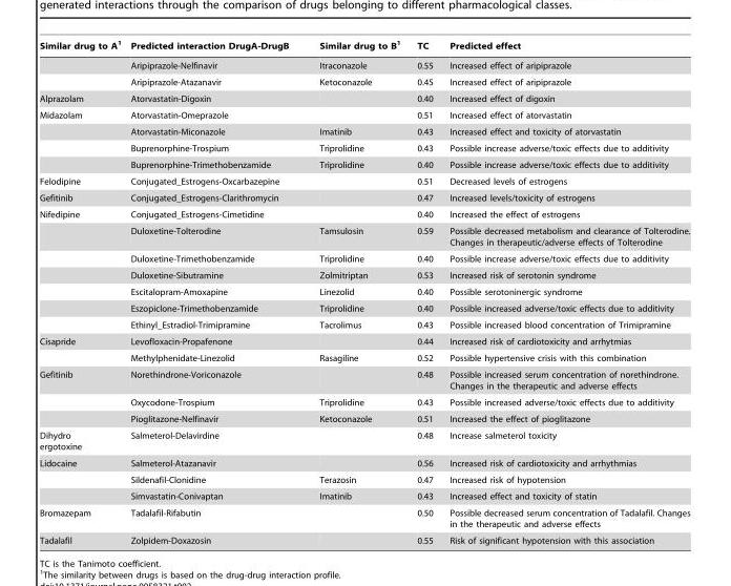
<table><thead><tr><td>Similar drug to A<sup>1</sup></td><td>Predicted interaction DrugA-DrugB</td><td>Similar drug to B<sup>1</sup></td><td>TC</td><td>Predicted effect</td></tr></thead><tbody><tr><td></td><td>Aripiprazole-Nelfinavir</td><td>Itraconazole</td><td>0.55</td><td>Increased effect of aripiprazole</td></tr><tr><td></td><td>Aripiprazole-Atazanavir</td><td>Ketoconazole</td><td>0.45</td><td>Increased effect of aripiprazole</td></tr><tr><td>Alprazolam</td><td>Atorvastatin-Digoxin</td><td></td><td>0.40</td><td>Increased effect of digoxin</td></tr><tr><td rowspan="4">Midazolam</td><td>Atorvastatin-Omeprazole</td><td></td><td>0.51</td><td>Increased effect of atorvastatin</td></tr><tr><td>Atorvastatin-Miconazole</td><td>Imatinib</td><td>0.43</td><td>Increased effect and toxicity of atorvastatin</td></tr><tr><td>Buprenorphine-Trospium</td><td>Triprolidine</td><td>0.43</td><td>Possible increase adverse/toxic effects due to additivity</td></tr><tr><td>Buprenorphine-Trimethobenzamide</td><td>Triprolidine</td><td>0.40</td><td>Possible increase adverse/toxic effects due to additivity</td></tr><tr><td>Felodipine</td><td>Conjugated_Estrogens-Oxcarbazepine</td><td></td><td>0.51</td><td>Decreased levels of estrogens</td></tr><tr><td>Gefitinib</td><td>Conjugated_Estrogens-Clarithromycin</td><td></td><td>0.47</td><td>Increased levels/toxicity of estrogens</td></tr><tr><td rowspan="7">Nifedipine</td><td>Conjugated_Estrogens-Cimetidine</td><td></td><td>0.40</td><td>Increased the effect of estrogens</td></tr><tr><td>Duloxetine-Tolterodine</td><td>Tamsulosin</td><td>0.59</td><td>Possible decreased metabolism and clearance of Tolterodine. Changes in therapeutic/adverse effects of Tolterodine</td></tr><tr><td>Duloxetine-Trimethobenzamide</td><td>Triprolidine</td><td>0.40</td><td>Possible increase adverse/toxic effects due to additivity</td></tr><tr><td>Duloxetine-Sibutramine</td><td>Zolmitriptan</td><td>0.53</td><td>Increased risk of serotonin syndrome</td></tr><tr><td>Escitalopram-Amoxapine</td><td>Linezolid</td><td>0.40</td><td>Possible serotoninergic syndrome</td></tr><tr><td>Eszopiclone-Trimethobenzamide</td><td>Triprolidine</td><td>0.40</td><td>Possible increased adverse/toxic effects due to additivity</td></tr><tr><td>Ethinyl_Estradiol-Trimipramine</td><td>Tacrolimus</td><td>0.43</td><td>Possible increased blood concentration of Trimipramine</td></tr><tr><td rowspan="2">Cisapride</td><td>Levofloxacin-Propafenone</td><td></td><td>0.44</td><td>Increased risk of cardiotoxicity and arrhytmias</td></tr><tr><td>Methylphenidate-Linezolid</td><td>Rasagiline</td><td>0.52</td><td>Possible hypertensive crisis with this combination</td></tr><tr><td rowspan="3">Gefitinib</td><td>Norethindrone-Voriconazole</td><td></td><td>0.48</td><td>Possible increased serum concentration of norethindrone. Changes in the therapeutic and adverse effects</td></tr><tr><td>Oxycodone-Trospium</td><td>Triprolidine</td><td>0.43</td><td>Possible increased adverse/toxic effects due to additivity</td></tr><tr><td>Pioglitazone-Nelfinavir</td><td>Ketoconazole</td><td>0.51</td><td>Increased the effect of pioglitazone</td></tr><tr><td>Dihydro ergotoxine</td><td>Salmeterol-Delavirdine</td><td></td><td>0.48</td><td>Increase salmeterol toxicity</td></tr><tr><td rowspan="3">Lidocaine</td><td>Salmeterol-Atazanavir</td><td></td><td>0.56</td><td>Increased risk of cardiotoxicity and arrhythmias</td></tr><tr><td>Sildenafil-Clonidine</td><td>Terazosin</td><td>0.47</td><td>Increased risk of hypotension</td></tr><tr><td>Simvastatin-Conivaptan</td><td>Imatinib</td><td>0.43</td><td>Increased effect and toxicity of statin</td></tr><tr><td>Bromazepam</td><td>Tadalafil-Rifabutin</td><td></td><td>0.50</td><td>Possible decreased serum concentration of Tadalafil. Changes in the therapeutic and adverse effects</td></tr><tr><td>Tadalafil</td><td>Zolpidem-Doxazosin</td><td></td><td>0.55</td><td>Risk of significant hypotension with this association</td></tr></tbody></table>